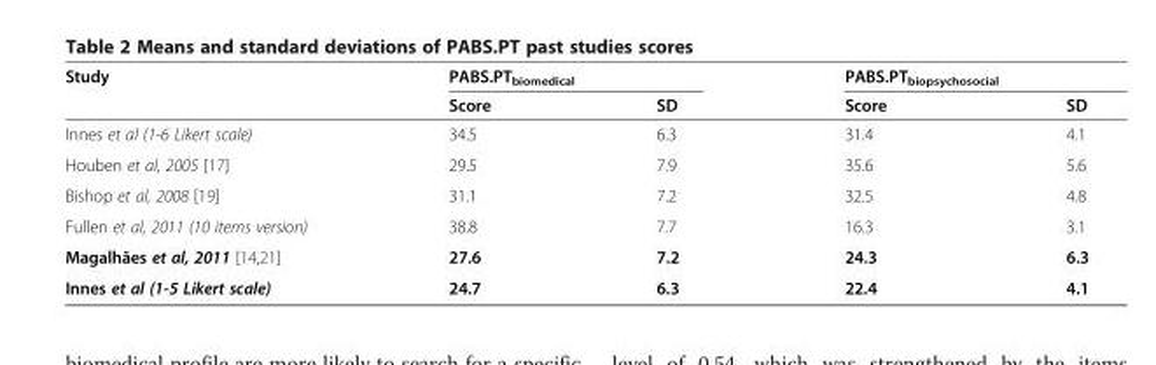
<table><thead><tr><td rowspan="2">Study</td><td colspan="2">PABS.PT<sub>biomedical</sub></td><td colspan="2">PABS.PT<sub>biopsychosocial</sub></td></tr><tr><td>Score</td><td>SD</td><td>Score</td><td>SD</td></tr></thead><tbody><tr><td>Innes et al (1-6 Likert scale)</td><td>34.5</td><td>6.3</td><td>31.4</td><td>4.1</td></tr><tr><td>Houben et al, 2005 [17]</td><td>29.5</td><td>7.9</td><td>35.6</td><td>5.6</td></tr><tr><td>Bishop et al, 2008 [19]</td><td>31.1</td><td>7.2</td><td>32.5</td><td>4.8</td></tr><tr><td>Fullen et al, 2011 (10 items version)</td><td>38.8</td><td>7.7</td><td>16.3</td><td>3.1</td></tr><tr><td>Magalhães et al, 2011 [14,21]</td><td>27.6</td><td>7.2</td><td>24.3</td><td>6.3</td></tr><tr><td>Innes et al (1-5 Likert scale)</td><td>24.7</td><td>6.3</td><td>22.4</td><td>4.1</td></tr></tbody></table>